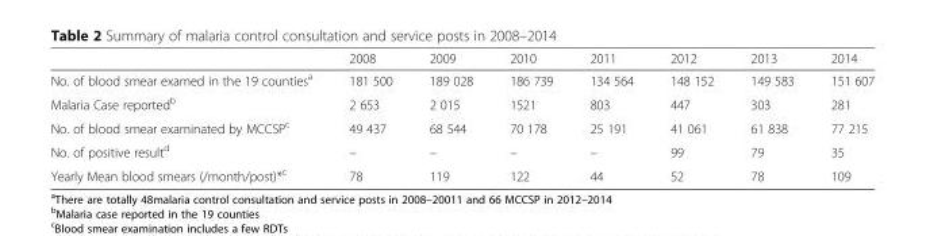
<table><thead><tr><td></td><td>2008</td><td>2009</td><td>2010</td><td>2011</td><td>2012</td><td>2013</td><td>2014</td></tr></thead><tbody><tr><td>No. of blood smear examed in the 19 counties<sup>a</sup></td><td>181 500</td><td>189 028</td><td>186 739</td><td>134 564</td><td>148 152</td><td>149 583</td><td>151 607</td></tr><tr><td>Malaria Case reported<sup>b</sup></td><td>2 653</td><td>2 015</td><td>1521</td><td>803</td><td>447</td><td>303</td><td>281</td></tr><tr><td>No. of blood smear examinated by MCCSP<sup>c</sup></td><td>49 437</td><td>68 544</td><td>70 178</td><td>25 191</td><td>41 061</td><td>61 838</td><td>77 215</td></tr><tr><td>No. of positive result<sup>d</sup></td><td>–</td><td>–</td><td>–</td><td>–</td><td>99</td><td>79</td><td>35</td></tr><tr><td>Yearly Mean blood smears (/month/post)*<sup>c</sup></td><td>78</td><td>119</td><td>122</td><td>44</td><td>52</td><td>78</td><td>109</td></tr></tbody></table>